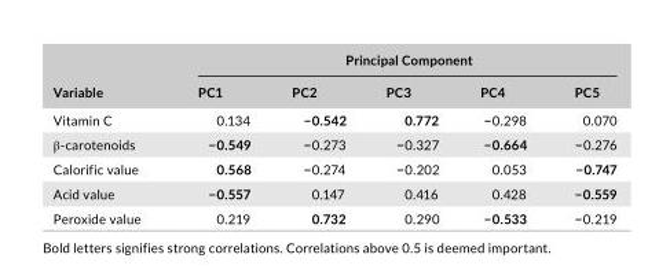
<table><thead><tr><td rowspan="2">Variable</td><td colspan="5">Principal Component</td></tr><tr><td>PC1</td><td>PC2</td><td>PC3</td><td>PC4</td><td>PC5</td></tr></thead><tbody><tr><td>Vitamin C</td><td>0.134</td><td>−0.542</td><td>0.772</td><td>−0.298</td><td>0.070</td></tr><tr><td>β- carotenoids</td><td>−0.549</td><td>−0.273</td><td>−0.327</td><td>−0.664</td><td>−0.276</td></tr><tr><td>Calorific value</td><td>0.568</td><td>−0.274</td><td>−0.202</td><td>0.053</td><td>−0.747</td></tr><tr><td>Acid value</td><td>−0.557</td><td>0.147</td><td>0.416</td><td>0.428</td><td>−0.559</td></tr><tr><td>Peroxide value</td><td>0.219</td><td>0.732</td><td>0.290</td><td>−0.533</td><td>−0.219</td></tr></tbody></table>